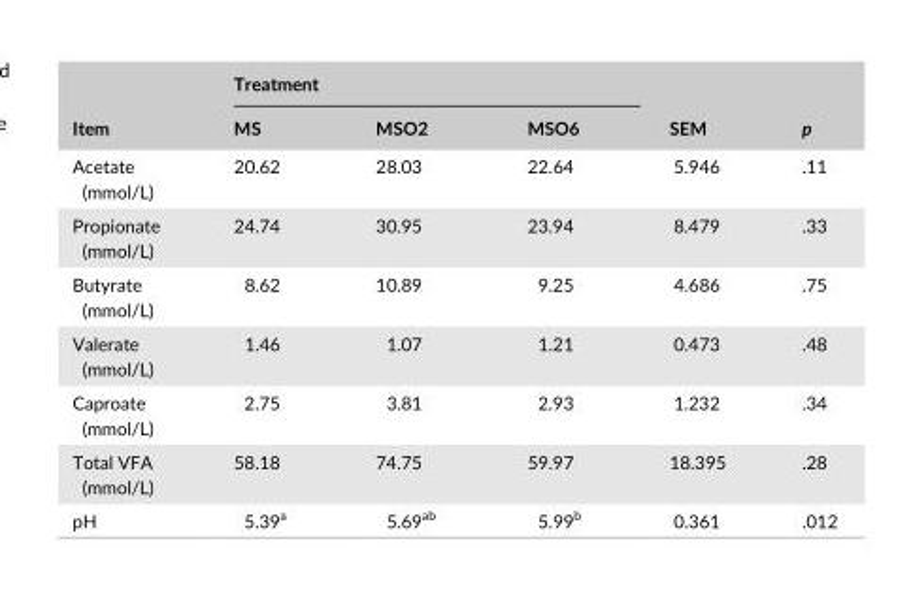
<table><thead><tr><td rowspan="2">Item</td><td colspan="3">Treatment</td><td rowspan="2">SEM</td><td rowspan="2">p</td></tr><tr><td>MS</td><td>MSO2</td><td>MSO6</td></tr></thead><tbody><tr><td>Acetate (mmol/L)</td><td>20.62</td><td>28.03</td><td>22.64</td><td>5.946</td><td>.11</td></tr><tr><td>Propionate (mmol/L)</td><td>24.74</td><td>30.95</td><td>23.94</td><td>8.479</td><td>.33</td></tr><tr><td>Butyrate (mmol/L)</td><td>8.62</td><td>10.89</td><td>9.25</td><td>4.686</td><td>.75</td></tr><tr><td>Valerate (mmol/L)</td><td>1.46</td><td>1.07</td><td>1.21</td><td>0.473</td><td>.48</td></tr><tr><td>Caproate (mmol/L)</td><td>2.75</td><td>3.81</td><td>2.93</td><td>1.232</td><td>.34</td></tr><tr><td>Total VFA (mmol/L)</td><td>58.18</td><td>74.75</td><td>59.97</td><td>18.395</td><td>.28</td></tr><tr><td>pH</td><td>5.39<sup>a</sup></td><td>5.69<sup>ab</sup></td><td>5.99<sup>b</sup></td><td>0.361</td><td>.012</td></tr></tbody></table>